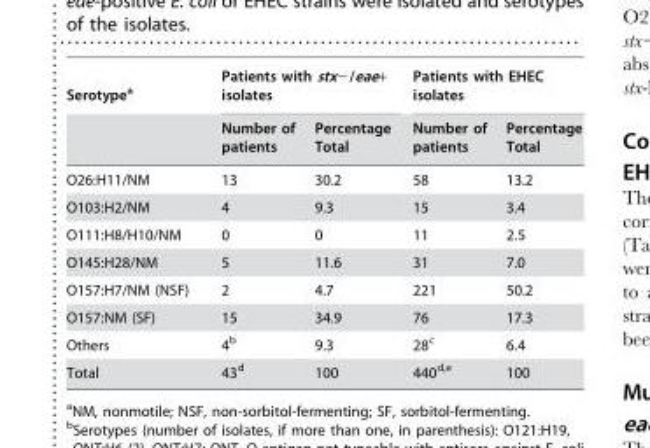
<table><thead><tr><td rowspan="2">Serotype<sup>a</sup></td><td colspan="2">Patients with stx−/eae+ isolates</td><td colspan="2">Patients with EHEC isolates</td></tr><tr><td>Number of patients</td><td>Percentage Total</td><td>Number of patients</td><td>Percentage Total</td></tr></thead><tbody><tr><td>O26:H11/NM</td><td>13</td><td>30.2</td><td>58</td><td>13.2</td></tr><tr><td>O103:H2/NM</td><td>4</td><td>9.3</td><td>15</td><td>3.4</td></tr><tr><td>O111:H8/H10/NM</td><td>0</td><td>0</td><td>11</td><td>2.5</td></tr><tr><td>O145:H28/NM</td><td>5</td><td>11.6</td><td>31</td><td>7.0</td></tr><tr><td>O157:H7/NM (NSF)</td><td>2</td><td>4.7</td><td>221</td><td>50.2</td></tr><tr><td>O157:NM (SF)</td><td>15</td><td>34.9</td><td>76</td><td>17.3</td></tr><tr><td>Others</td><td>4<sup>b</sup></td><td>9.3</td><td>28<sup>c</sup></td><td>6.4</td></tr><tr><td>Total</td><td>43<sup>d</sup></td><td>100</td><td>440<sup>d,</sup>e</td><td>100</td></tr></tbody></table>